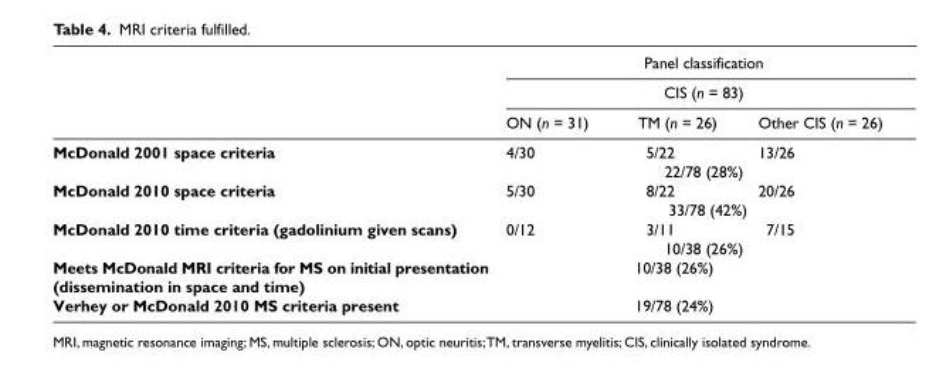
<table><thead><tr><td rowspan="3"></td><td rowspan="2" colspan="3">Panel classification CIS (n = 83)</td></tr><tr></tr><tr><td>ON (n = 31)</td><td>TM (n = 26)</td><td>Other CIS (n = 26)</td></tr></thead><tbody><tr><td rowspan="2">McDonald 2001 space criteria</td><td>4/30</td><td>5/22</td><td>13/26</td></tr><tr><td colspan="3">22/78 (28%)</td></tr><tr><td rowspan="2">McDonald 2010 space criteria</td><td>5/30</td><td>8/22</td><td>20/26</td></tr><tr><td colspan="3">33/78 (42%)</td></tr><tr><td rowspan="2">McDonald 2010 time criteria (gadolinium given scans)</td><td>0/12</td><td>3/11</td><td>7/15</td></tr><tr><td colspan="3">10/38 (26%)</td></tr><tr><td>Meets McDonald MRI criteria for MS on initial presentation (dissemination in space and time)</td><td colspan="3">10/38 (26%)</td></tr><tr><td>Verhey or McDonald 2010 MS criteria present</td><td colspan="3">19/78 (24%)</td></tr></tbody></table>